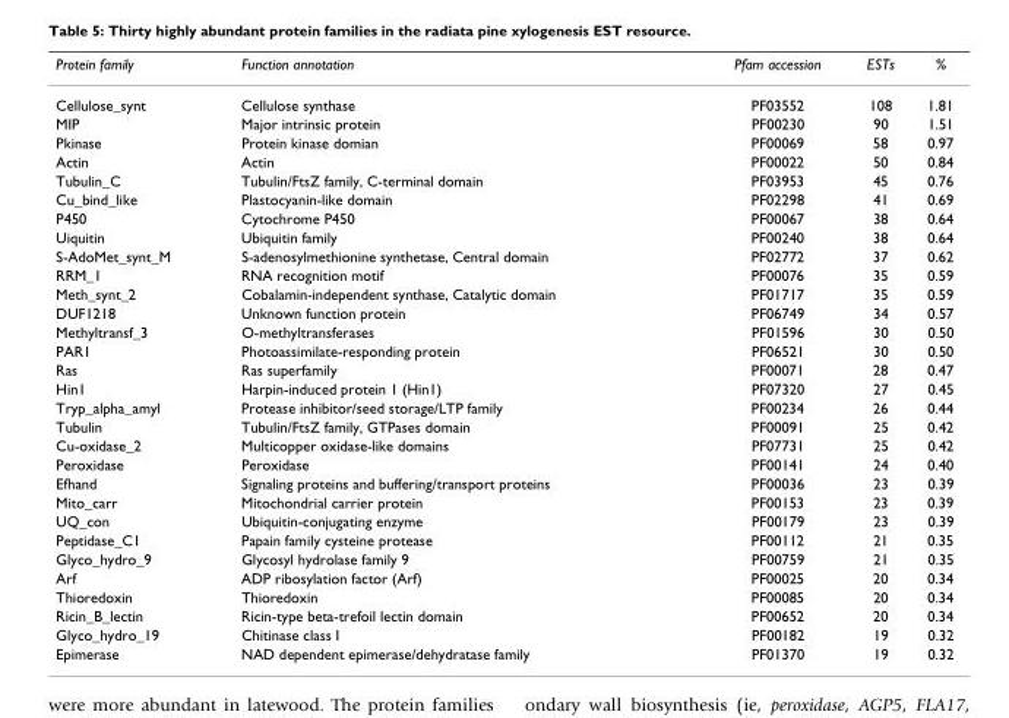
<table><thead><tr><td>Protein family</td><td>Function annotation</td><td>Pfam accession</td><td>ESTs</td><td>%</td></tr></thead><tbody><tr><td>Cellulose_synt</td><td>Cellulose synthase</td><td>PF03552</td><td>108</td><td>1.81</td></tr><tr><td>MIP</td><td>Major intrinsic protein</td><td>PF00230</td><td>90</td><td>1.51</td></tr><tr><td>Pkinase</td><td>Protein kinase domian</td><td>PF00069</td><td>58</td><td>0.97</td></tr><tr><td>Actin</td><td>Actin</td><td>PF00022</td><td>50</td><td>0.84</td></tr><tr><td>Tubulin_C</td><td>Tubulin/FtsZ family, C-terminal domain</td><td>PF03953</td><td>45</td><td>0.76</td></tr><tr><td>Cu_bind_like</td><td>Plastocyanin-like domain</td><td>PF02298</td><td>41</td><td>0.69</td></tr><tr><td>P450</td><td>Cytochrome P450</td><td>PF00067</td><td>38</td><td>0.64</td></tr><tr><td>Uiquitin</td><td>Ubiquitin family</td><td>PF00240</td><td>38</td><td>0.64</td></tr><tr><td>S-AdoMet_synt_M</td><td>S-adenosylmethionine synthetase, Central domain</td><td>PF02772</td><td>37</td><td>0.62</td></tr><tr><td>RRM_1</td><td>RNA recognition motif</td><td>PF00076</td><td>35</td><td>0.59</td></tr><tr><td>Meth_synt_2</td><td>Cobalamin-independent synthase, Catalytic domain</td><td>PF01717</td><td>35</td><td>0.59</td></tr><tr><td>DUF1218</td><td>Unknown function protein</td><td>PF06749</td><td>34</td><td>0.57</td></tr><tr><td>Methyltransf_3</td><td>O-methyltransferases</td><td>PF01596</td><td>30</td><td>0.50</td></tr><tr><td>PAR1</td><td>Photoassimilate-responding protein</td><td>PF06521</td><td>30</td><td>0.50</td></tr><tr><td>Ras</td><td>Ras superfamily</td><td>PF00071</td><td>28</td><td>0.47</td></tr><tr><td>Hin1</td><td>Harpin-induced protein 1 (Hin1)</td><td>PF07320</td><td>27</td><td>0.45</td></tr><tr><td>Tryp_alpha_amyl</td><td>Protease inhibitor/seed storage/LTP family</td><td>PF00234</td><td>26</td><td>0.44</td></tr><tr><td>Tubulin</td><td>Tubulin/FtsZ family, GTPases domain</td><td>PF00091</td><td>25</td><td>0.42</td></tr><tr><td>Cu-oxidase_2</td><td>Multicopper oxidase-like domains</td><td>PF07731</td><td>25</td><td>0.42</td></tr><tr><td>Peroxidase</td><td>Peroxidase</td><td>PF00141</td><td>24</td><td>0.40</td></tr><tr><td>Efhand</td><td>Signaling proteins and buffering/transport proteins</td><td>PF00036</td><td>23</td><td>0.39</td></tr><tr><td>Mito_carr</td><td>Mitochondrial carrier protein</td><td>PF00153</td><td>23</td><td>0.39</td></tr><tr><td>UQ_con</td><td>Ubiquitin-conjugating enzyme</td><td>PF00179</td><td>23</td><td>0.39</td></tr><tr><td>Peptidase_C1</td><td>Papain family cysteine protease</td><td>PF00112</td><td>21</td><td>0.35</td></tr><tr><td>Glyco_hydro_9</td><td>Glycosyl hydrolase family 9</td><td>PF00759</td><td>21</td><td>0.35</td></tr><tr><td>Arf</td><td>ADP ribosylation factor (Arf)</td><td>PF00025</td><td>20</td><td>0.34</td></tr><tr><td>Thioredoxin</td><td>Thioredoxin</td><td>PF00085</td><td>20</td><td>0.34</td></tr><tr><td>Ricin_B_lectin</td><td>Ricin-type beta-trefoil lectin domain</td><td>PF00652</td><td>20</td><td>0.34</td></tr><tr><td>Glyco_hydro_19</td><td>Chitinase class I</td><td>PF00182</td><td>19</td><td>0.32</td></tr><tr><td>Epimerase</td><td>NAD dependent epimerase/dehydratase family</td><td>PF01370</td><td>19</td><td>0.32</td></tr></tbody></table>